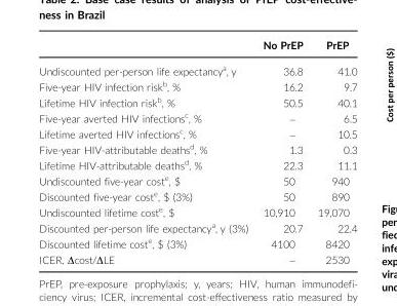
<table><thead><tr><td></td><td>No PrEP</td><td>PrEP</td></tr></thead><tbody><tr><td>Undiscounted per-person life expectancy<sup>a</sup>, y</td><td>36.8</td><td>41.0</td></tr><tr><td>Five-year HIV infection risk<sup>b</sup>, %</td><td>16.2</td><td>9.7</td></tr><tr><td>Lifetime HIV infection risk<sup>b</sup>, %</td><td>50.5</td><td>40.1</td></tr><tr><td>Five-year averted HIV infections<sup>c</sup>, %</td><td>–</td><td>6.5</td></tr><tr><td>Lifetime averted HIV infections<sup>c</sup>, %</td><td>–</td><td>10.5</td></tr><tr><td>Five-year HIV-attributable deaths<sup>d</sup>, %</td><td>1.3</td><td>0.3</td></tr><tr><td>Lifetime HIV-attributable deaths<sup>d</sup>, %</td><td>22.3</td><td>11.1</td></tr><tr><td>Undiscounted five-year cost<sup>e</sup>, $</td><td>50</td><td>940</td></tr><tr><td>Discounted five-year cost<sup>e</sup>, $ (3%)</td><td>50</td><td>890</td></tr><tr><td>Undiscounted lifetime cost<sup>e</sup>, $</td><td>10,910</td><td>19,070</td></tr><tr><td>Discounted per-person life expectancy<sup>a</sup>, y (3%)</td><td>20.7</td><td>22.4</td></tr><tr><td>Discounted lifetime cost<sup>e</sup>, $ (3%)</td><td>4100</td><td>8420</td></tr><tr><td>ICER, Δcost/ΔLE</td><td>–</td><td>2530</td></tr></tbody></table>